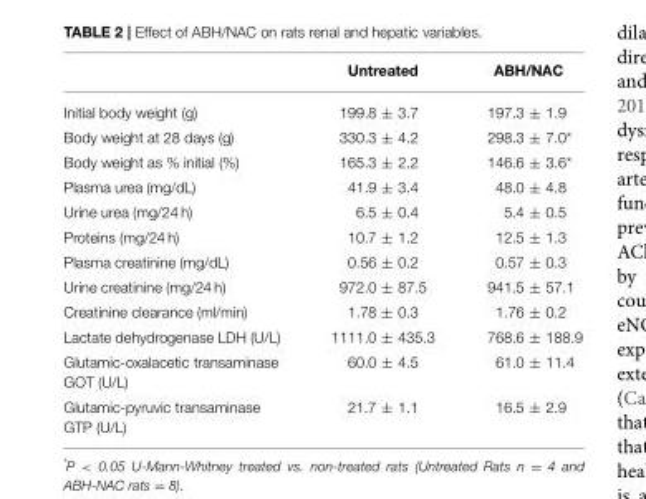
<table><thead><tr><td></td><td>Untreated</td><td>ABH/NAC</td></tr></thead><tbody><tr><td>Initial body weight (g)</td><td>199.8 ± 3.7</td><td>197.3 ± 1.9</td></tr><tr><td>Body weight at 28 days (g)</td><td>330.3 ± 4.2</td><td>298.3 ± 7.0*</td></tr><tr><td>Body weight as % initial (%)</td><td>165.3 ± 2.2</td><td>146.6 ± 3.6*</td></tr><tr><td>Plasma urea (mg/dL)</td><td>41.9 ± 3.4</td><td>48.0 ± 4.8</td></tr><tr><td>Urine urea (mg/24 h)</td><td>6.5 ± 0.4</td><td>5.4 ± 0.5</td></tr><tr><td>Proteins (mg/24 h)</td><td>10.7 ± 1.2</td><td>12.5 ± 1.3</td></tr><tr><td>Plasma creatinine (mg/dL)</td><td>0.56 ± 0.2</td><td>0.57 ± 0.3</td></tr><tr><td>Urine creatinine (mg/24 h)</td><td>972.0 ± 87.5</td><td>941.5 ± 57.1</td></tr><tr><td>Creatinine clearance (ml/min)</td><td>1.78 ± 0.3</td><td>1.76 ± 0.2</td></tr><tr><td>Lactate dehydrogenase LDH (U/L)</td><td>1111.0 ± 435.3</td><td>768.6 ± 188.9</td></tr><tr><td>Glutamic-oxalacetic transaminase GOT (U/L)</td><td>60.0 ± 4.5</td><td>61.0 ± 11.4</td></tr><tr><td>Glutamic-pyruvic transaminase GTP (U/L)</td><td>21.7 ± 1.1</td><td>16.5 ± 2.9</td></tr></tbody></table>